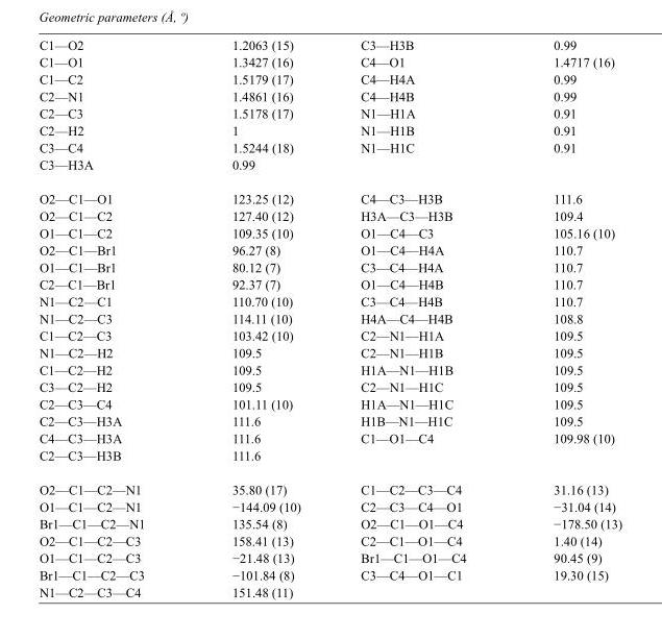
<table><tbody><tr><td>C1—O2</td><td>1.2063 (15)</td><td>C3—H3B</td><td>0.99</td></tr><tr><td>C1—O1</td><td>1.3427 (16)</td><td>C4—O1</td><td>1.4717 (16)</td></tr><tr><td>C1—C2</td><td>1.5179 (17)</td><td>C4—H4A</td><td>0.99</td></tr><tr><td>C2—N1</td><td>1.4861 (16)</td><td>C4—H4B</td><td>0.99</td></tr><tr><td>C2—C3</td><td>1.5178 (17)</td><td>N1—H1A</td><td>0.91</td></tr><tr><td>C2—H2</td><td>1</td><td>N1—H1B</td><td>0.91</td></tr><tr><td>C3—C4</td><td>1.5244 (18)</td><td>N1—H1C</td><td>0.91</td></tr><tr><td>C3—H3A</td><td>0.99</td><td></td><td></td></tr><tr><td>O2—C1—O1</td><td>123.25 (12)</td><td>C4—C3—H3B</td><td>111.6</td></tr><tr><td>O2—C1—C2</td><td>127.40 (12)</td><td>H3A—C3—H3B</td><td>109.4</td></tr><tr><td>O1—C1—C2</td><td>109.35 (10)</td><td>O1—C4—C3</td><td>105.16 (10)</td></tr><tr><td>O2—C1—Br1</td><td>96.27 (8)</td><td>O1—C4—H4A</td><td>110.7</td></tr><tr><td>O1—C1—Br1</td><td>80.12 (7)</td><td>C3—C4—H4A</td><td>110.7</td></tr><tr><td>C2—C1—Br1</td><td>92.37 (7)</td><td>O1—C4—H4B</td><td>110.7</td></tr><tr><td>N1—C2—C1</td><td>110.70 (10)</td><td>C3—C4—H4B</td><td>110.7</td></tr><tr><td>N1—C2—C3</td><td>114.11 (10)</td><td>H4A—C4—H4B</td><td>108.8</td></tr><tr><td>C1—C2—C3</td><td>103.42 (10)</td><td>C2—N1—H1A</td><td>109.5</td></tr><tr><td>N1—C2—H2</td><td>109.5</td><td>C2—N1—H1B</td><td>109.5</td></tr><tr><td>C1—C2—H2</td><td>109.5</td><td>H1A—N1—H1B</td><td>109.5</td></tr><tr><td>C3—C2—H2</td><td>109.5</td><td>C2—N1—H1C</td><td>109.5</td></tr><tr><td>C2—C3—C4</td><td>101.11 (10)</td><td>H1A—N1—H1C</td><td>109.5</td></tr><tr><td>C2—C3—H3A</td><td>111.6</td><td>H1B—N1—H1C</td><td>109.5</td></tr><tr><td>C4—C3—H3A</td><td>111.6</td><td>C1—O1—C4</td><td>109.98 (10)</td></tr><tr><td>C2—C3—H3B</td><td>111.6</td><td></td><td></td></tr><tr><td>O2—C1—C2—N1</td><td>35.80 (17)</td><td>C1—C2—C3—C4</td><td>31.16 (13)</td></tr><tr><td>O1—C1—C2—N1</td><td>−144.09 (10)</td><td>C2—C3—C4—O1</td><td>−31.04 (14)</td></tr><tr><td>Br1—C1—C2—N1</td><td>135.54 (8)</td><td>O2—C1—O1—C4</td><td>−178.50 (13)</td></tr><tr><td>O2—C1—C2—C3</td><td>158.41 (13)</td><td>C2—C1—O1—C4</td><td>1.40 (14)</td></tr><tr><td>O1—C1—C2—C3</td><td>−21.48 (13)</td><td>Br1—C1—O1—C4</td><td>90.45 (9)</td></tr><tr><td>Br1—C1—C2—C3</td><td>−101.84 (8)</td><td>C3—C4—O1—C1</td><td>19.30 (15)</td></tr><tr><td>N1—C2—C3—C4</td><td>151.48 (11)</td><td></td><td></td></tr></tbody></table>